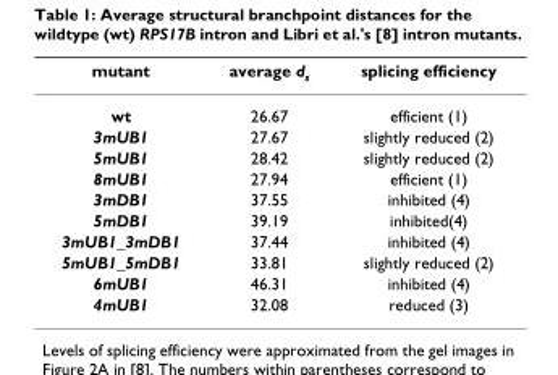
<table><thead><tr><td>mutant</td><td>average d<sub>s</sub></td><td>splicing efficiency</td></tr></thead><tbody><tr><td>wt</td><td>26.67</td><td>efficient (1)</td></tr><tr><td>3mUB1</td><td>27.67</td><td>slightly reduced (2)</td></tr><tr><td>5mUB1</td><td>28.42</td><td>slightly reduced (2)</td></tr><tr><td>8mUB1</td><td>27.94</td><td>efficient (1)</td></tr><tr><td>3mDB1</td><td>37.55</td><td>inhibited (4)</td></tr><tr><td>5mDB1</td><td>39.19</td><td>inhibited(4)</td></tr><tr><td>3mUB1_3mDB1</td><td>37.44</td><td>inhibited (4)</td></tr><tr><td>5mUB1_5mDB1</td><td>33.81</td><td>slightly reduced (2)</td></tr><tr><td>6mUB1</td><td>46.31</td><td>inhibited (4)</td></tr><tr><td>4mUB1</td><td>32.08</td><td>reduced (3)</td></tr></tbody></table>